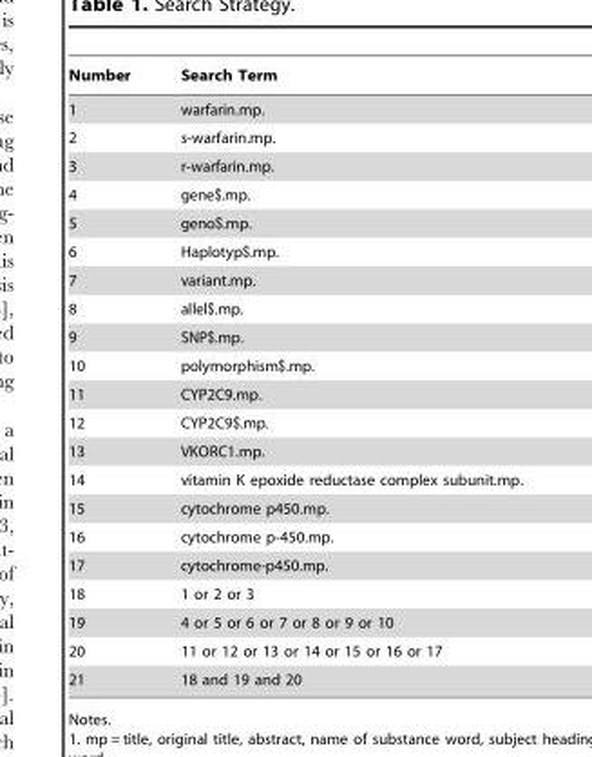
<table><thead><tr><td>Number</td><td>Search Term</td></tr></thead><tbody><tr><td>1</td><td>warfarin.mp.</td></tr><tr><td>2</td><td>s-warfarin.mp.</td></tr><tr><td>3</td><td>r-warfarin.mp.</td></tr><tr><td>4</td><td>gene$.mp.</td></tr><tr><td>5</td><td>geno$.mp.</td></tr><tr><td>6</td><td>Haplotyp$.mp.</td></tr><tr><td>7</td><td>variant.mp.</td></tr><tr><td>8</td><td>allel$.mp.</td></tr><tr><td>9</td><td>SNP$.mp.</td></tr><tr><td>10</td><td>polymorphism$.mp.</td></tr><tr><td>11</td><td>CYP2C9.mp.</td></tr><tr><td>12</td><td>CYP2C9$.mp.</td></tr><tr><td>13</td><td>VKORC1.mp.</td></tr><tr><td>14</td><td>vitamin K epoxide reductase complex subunit.mp.</td></tr><tr><td>15</td><td>cytochrome p450.mp.</td></tr><tr><td>16</td><td>cytochrome p-450.mp.</td></tr><tr><td>17</td><td>cytochrome-p450.mp.</td></tr><tr><td>18</td><td>1 or 2 or 3</td></tr><tr><td>19</td><td>4 or 5 or 6 or 7 or 8 or 9 or 10</td></tr><tr><td>20</td><td>11 or 12 or 13 or 14 or 15 or 16 or 17</td></tr><tr><td>21</td><td>18 and 19 and 20</td></tr></tbody></table>